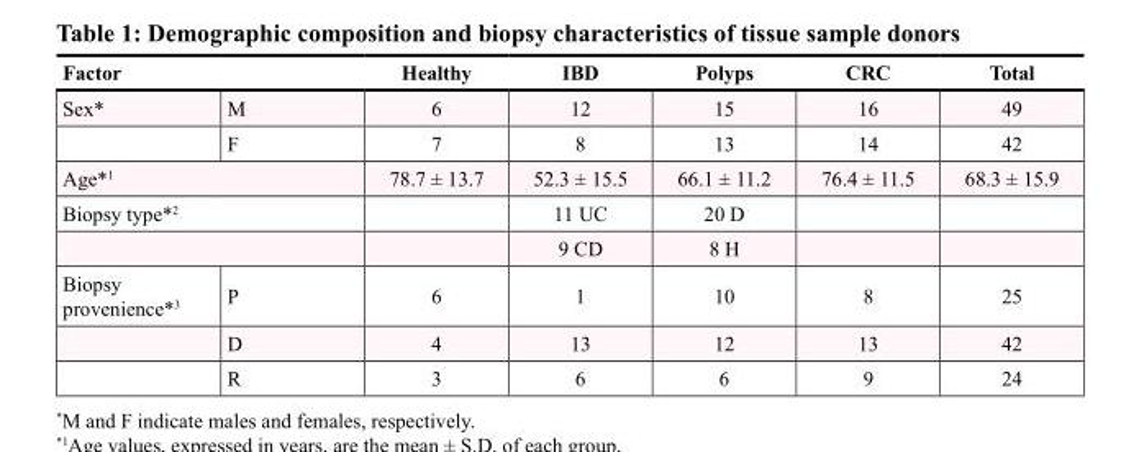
<table><thead><tr><td colspan="2">Factor</td><td rowspan="2">Healthy 6</td><td rowspan="2">IBD 12</td><td rowspan="2">Polyps 15</td><td rowspan="2">CRC 16</td><td rowspan="2">Total 49</td></tr><tr><td>Sex*</td><td>M</td></tr></thead><tbody><tr><td></td><td>F</td><td>7</td><td>8</td><td>13</td><td>14</td><td>42</td></tr><tr><td colspan="2">Age*<sup>1</sup></td><td>78.7 ± 13.7</td><td>52.3 ± 15.5</td><td>66.1 ± 11.2</td><td>76.4 ± 11.5</td><td>68.3 ± 15.9</td></tr><tr><td rowspan="2" colspan="2">Biopsy type*<sup>2</sup></td><td></td><td>11 UC</td><td>20 D</td><td></td><td></td></tr><tr><td></td><td>9 CD</td><td>8 H</td><td></td><td></td></tr><tr><td rowspan="3">Biopsy provenience*<sup>3</sup></td><td>P</td><td>6</td><td>1</td><td>10</td><td>8</td><td>25</td></tr><tr><td>D</td><td>4</td><td>13</td><td>12</td><td>13</td><td>42</td></tr><tr><td>R</td><td>3</td><td>6</td><td>6</td><td>9</td><td>24</td></tr></tbody></table>